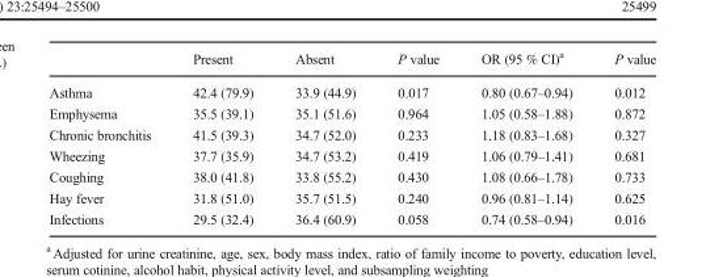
<table><thead><tr><td></td><td>Present</td><td>Absent</td><td>P value</td><td>OR (95 % CI)<sup>a</sup></td><td>P value</td></tr></thead><tbody><tr><td>Asthma</td><td>42.4 (79.9)</td><td>33.9 (44.9)</td><td>0.017</td><td>0.80 (0.67–0.94)</td><td>0.012</td></tr><tr><td>Emphysema</td><td>35.5 (39.1)</td><td>35.1 (51.6)</td><td>0.964</td><td>1.05 (0.58–1.88)</td><td>0.872</td></tr><tr><td>Chronic bronchitis</td><td>41.5 (39.3)</td><td>34.7 (52.0)</td><td>0.233</td><td>1.18 (0.83–1.68)</td><td>0.327</td></tr><tr><td>Wheezing</td><td>37.7 (35.9)</td><td>34.7 (53.2)</td><td>0.419</td><td>1.06 (0.79–1.41)</td><td>0.681</td></tr><tr><td>Coughing</td><td>38.0 (41.8)</td><td>33.8 (55.2)</td><td>0.430</td><td>1.08 (0.66–1.78)</td><td>0.733</td></tr><tr><td>Hay fever</td><td>31.8 (51.0)</td><td>35.7 (51.5)</td><td>0.240</td><td>0.96 (0.81–1.14)</td><td>0.625</td></tr><tr><td>Infections</td><td>29.5 (32.4)</td><td>36.4 (60.9)</td><td>0.058</td><td>0.74 (0.58–0.94)</td><td>0.016</td></tr></tbody></table>